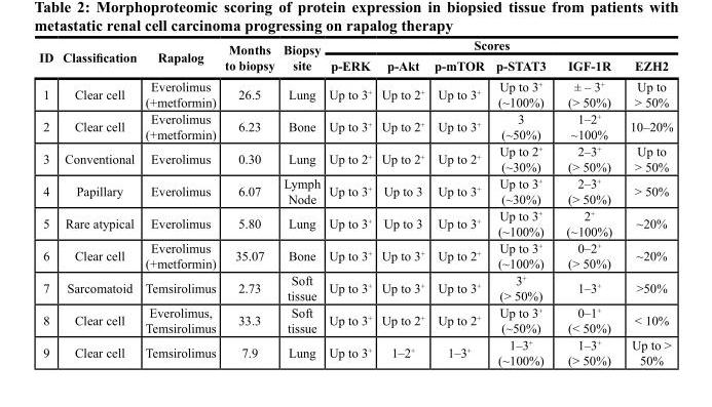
<table><thead><tr><td rowspan="2">ID</td><td rowspan="2">Classification</td><td rowspan="2">Rapalog</td><td rowspan="2">Months to biopsy</td><td rowspan="2">Biopsy site</td><td colspan="6">Scores</td></tr><tr><td>p-ERK</td><td>p-Akt</td><td>p-mTOR</td><td>p-STAT3</td><td>IGF-1R</td><td>EZH2</td></tr></thead><tbody><tr><td>1</td><td>Clear cell</td><td>Everolimus (+metformin)</td><td>26.5</td><td>Lung</td><td>Up to 3<sup>+</sup></td><td>Up to 2<sup>+</sup></td><td>Up to 3<sup>+</sup></td><td>Up to 3<sup>+</sup> (~100%)</td><td>± – 3<sup>+</sup> (&gt; 50%)</td><td>Up to &gt; 50%</td></tr><tr><td>2</td><td>Clear cell</td><td>Everolimus (+metformin)</td><td>6.23</td><td>Bone</td><td>Up to 3<sup>+</sup></td><td>Up to 2<sup>+</sup></td><td>Up to 3<sup>+</sup></td><td>3 (~50%)</td><td>1–2<sup>+</sup> ~100%</td><td>10–20%</td></tr><tr><td>3</td><td>Conventional</td><td>Everolimus</td><td>0.30</td><td>Lung</td><td>Up to 2<sup>+</sup></td><td>Up to 2<sup>+</sup></td><td>Up to 2<sup>+</sup></td><td>Up to 2<sup>+</sup> (~30%)</td><td>2–3<sup>+</sup> (&gt; 50%)</td><td>Up to &gt; 50%</td></tr><tr><td>4</td><td>Papillary</td><td>Everolimus</td><td>6.07</td><td>Lymph Node</td><td>Up to 3<sup>+</sup></td><td>Up to 3</td><td>Up to 3<sup>+</sup></td><td>Up to 3<sup>+</sup> (~30%)</td><td>2–3<sup>+</sup> (&gt; 50%)</td><td>&gt; 50%</td></tr><tr><td>5</td><td>Rare atypical</td><td>Everolimus</td><td>5.80</td><td>Lung</td><td>Up to 3<sup>+</sup></td><td>Up to 3</td><td>Up to 3<sup>+</sup></td><td>Up to 3<sup>+</sup> (~100%)</td><td>2<sup>+</sup> (~100%)</td><td>~20%</td></tr><tr><td>6</td><td>Clear cell</td><td>Everolimus (+metformin)</td><td>35.07</td><td>Bone</td><td>Up to 3<sup>+</sup></td><td>Up to 3<sup>+</sup></td><td>Up to 2<sup>+</sup></td><td>Up to 3<sup>+</sup> (~100%)</td><td>0–2<sup>+</sup> (&gt; 50%)</td><td>~20%</td></tr><tr><td>7</td><td>Sarcomatoid</td><td>Temsirolimus</td><td>2.73</td><td>Soft tissue</td><td>Up to 3<sup>+</sup></td><td>Up to 3<sup>+</sup></td><td>Up to 3<sup>+</sup></td><td>3<sup>+</sup> (&gt; 50%)</td><td>1–3<sup>+</sup></td><td>&gt;50%</td></tr><tr><td>8</td><td>Clear cell</td><td>Everolimus, Temsirolimus</td><td>33.3</td><td>Soft tissue</td><td>Up to 3<sup>+</sup></td><td>Up to 2<sup>+</sup></td><td>Up to 2<sup>+</sup></td><td>Up to 3<sup>+</sup> (~50%)</td><td>0–1<sup>+</sup> (&lt; 50%)</td><td>&lt; 10%</td></tr><tr><td>9</td><td>Clear cell</td><td>Temsirolimus</td><td>7.9</td><td>Lung</td><td>Up to 3<sup>+</sup></td><td>1–2<sup>+</sup></td><td>1–3<sup>+</sup></td><td>1–3<sup>+</sup> (~100%)</td><td>1–3<sup>+</sup> (&gt; 50%)</td><td>Up to &gt; 50%</td></tr></tbody></table>